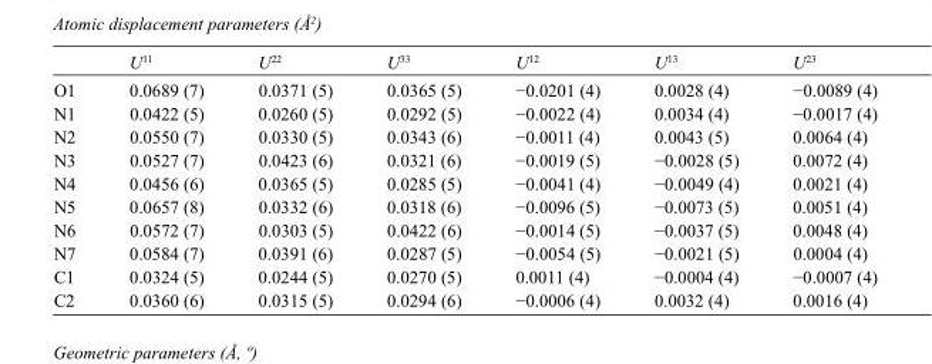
<table><thead><tr><td></td><td>U<sup>11</sup></td><td>U<sup>22</sup></td><td>U<sup>33</sup></td><td>U<sup>12</sup></td><td>U<sup>13</sup></td><td>U<sup>23</sup></td></tr></thead><tbody><tr><td>O1</td><td>0.0689 (7)</td><td>0.0371 (5)</td><td>0.0365 (5)</td><td>−0.0201 (4)</td><td>0.0028 (4)</td><td>−0.0089 (4)</td></tr><tr><td>N1</td><td>0.0422 (5)</td><td>0.0260 (5)</td><td>0.0292 (5)</td><td>−0.0022 (4)</td><td>0.0034 (4)</td><td>−0.0017 (4)</td></tr><tr><td>N2</td><td>0.0550 (7)</td><td>0.0330 (5)</td><td>0.0343 (6)</td><td>−0.0011 (4)</td><td>0.0043 (5)</td><td>0.0064 (4)</td></tr><tr><td>N3</td><td>0.0527 (7)</td><td>0.0423 (6)</td><td>0.0321 (6)</td><td>−0.0019 (5)</td><td>−0.0028 (5)</td><td>0.0072 (4)</td></tr><tr><td>N4</td><td>0.0456 (6)</td><td>0.0365 (5)</td><td>0.0285 (5)</td><td>−0.0041 (4)</td><td>−0.0049 (4)</td><td>0.0021 (4)</td></tr><tr><td>N5</td><td>0.0657 (8)</td><td>0.0332 (6)</td><td>0.0318 (6)</td><td>−0.0096 (5)</td><td>−0.0073 (5)</td><td>0.0051 (4)</td></tr><tr><td>N6</td><td>0.0572 (7)</td><td>0.0303 (5)</td><td>0.0422 (6)</td><td>−0.0014 (5)</td><td>−0.0037 (5)</td><td>0.0048 (4)</td></tr><tr><td>N7</td><td>0.0584 (7)</td><td>0.0391 (6)</td><td>0.0287 (5)</td><td>−0.0054 (5)</td><td>−0.0021 (5)</td><td>0.0004 (4)</td></tr><tr><td>C1</td><td>0.0324 (5)</td><td>0.0244 (5)</td><td>0.0270 (5)</td><td>0.0011 (4)</td><td>−0.0004 (4)</td><td>−0.0007 (4)</td></tr><tr><td>C2</td><td>0.0360 (6)</td><td>0.0315 (5)</td><td>0.0294 (6)</td><td>−0.0006 (4)</td><td>0.0032 (4)</td><td>0.0016 (4)</td></tr></tbody></table>